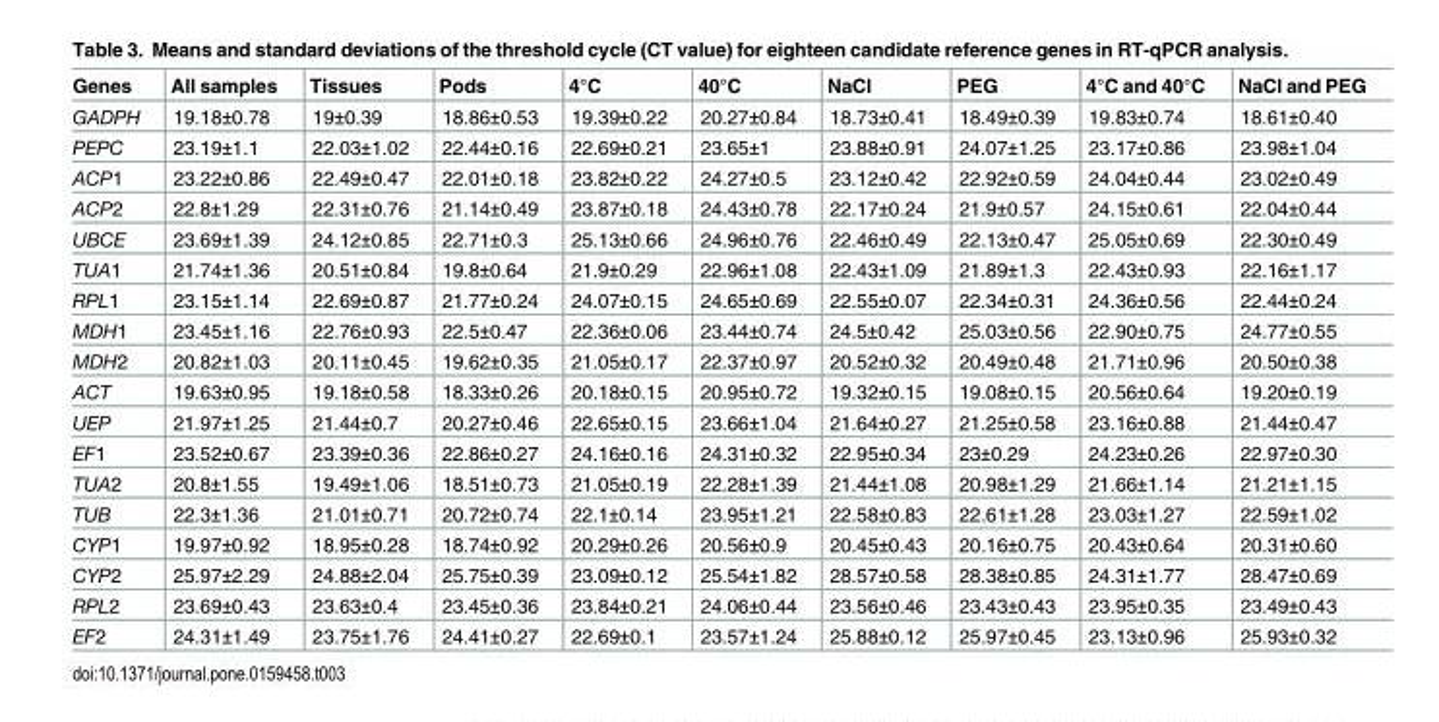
<table><thead><tr><td>Genes</td><td>All samples</td><td>Tissues</td><td>Pods</td><td>4°C</td><td>40°C</td><td>NaCl</td><td>PEG</td><td>4°C and 40°C</td><td>NaCl and PEG</td></tr></thead><tbody><tr><td>GADPH</td><td>19.18±0.78</td><td>19±0.39</td><td>18.86±0.53</td><td>19.39±0.22</td><td>20.27±0.84</td><td>18.73±0.41</td><td>18.49±0.39</td><td>19.83±0.74</td><td>18.61±0.40</td></tr><tr><td>PEPC</td><td>23.19±1.1</td><td>22.03±1.02</td><td>22.44±0.16</td><td>22.69±0.21</td><td>23.65±1</td><td>23.88±0.91</td><td>24.07±1.25</td><td>23.17±0.86</td><td>23.98±1.04</td></tr><tr><td>ACP1</td><td>23.22±0.86</td><td>22.49±0.47</td><td>22.01±0.18</td><td>23.82±0.22</td><td>24.27±0.5</td><td>23.12±0.42</td><td>22.92±0.59</td><td>24.04±0.44</td><td>23.02±0.49</td></tr><tr><td>ACP2</td><td>22.8±1.29</td><td>22.31±0.76</td><td>21.14±0.49</td><td>23.87±0.18</td><td>24.43±0.78</td><td>22.17±0.24</td><td>21.9±0.57</td><td>24.15±0.61</td><td>22.04±0.44</td></tr><tr><td>UBCE</td><td>23.69±1.39</td><td>24.12±0.85</td><td>22.71±0.3</td><td>25.13±0.66</td><td>24.96±0.76</td><td>22.46±0.49</td><td>22.13±0.47</td><td>25.05±0.69</td><td>22.30±0.49</td></tr><tr><td>TUA1</td><td>21.74±1.36</td><td>20.51±0.84</td><td>19.8±0.64</td><td>21.9±0.29</td><td>22.96±1.08</td><td>22.43±1.09</td><td>21.89±1.3</td><td>22.43±0.93</td><td>22.16±1.17</td></tr><tr><td>RPL1</td><td>23.15±1.14</td><td>22.69±0.87</td><td>21.77±0.24</td><td>24.07±0.15</td><td>24.65±0.69</td><td>22.55±0.07</td><td>22.34±0.31</td><td>24.36±0.56</td><td>22.44±0.24</td></tr><tr><td>MDH1</td><td>23.45±1.16</td><td>22.76±0.93</td><td>22.5±0.47</td><td>22.36±0.06</td><td>23.44±0.74</td><td>24.5±0.42</td><td>25.03±0.56</td><td>22.90±0.75</td><td>24.77±0.55</td></tr><tr><td>MDH2</td><td>20.82±1.03</td><td>20.11±0.45</td><td>19.62±0.35</td><td>21.05±0.17</td><td>22.37±0.97</td><td>20.52±0.32</td><td>20.49±0.48</td><td>21.71±0.96</td><td>20.50±0.38</td></tr><tr><td>ACT</td><td>19.63±0.95</td><td>19.18±0.58</td><td>18.33±0.26</td><td>20.18±0.15</td><td>20.95±0.72</td><td>19.32±0.15</td><td>19.08±0.15</td><td>20.56±0.64</td><td>19.20±0.19</td></tr><tr><td>UEP</td><td>21.97±1.25</td><td>21.44±0.7</td><td>20.27±0.46</td><td>22.65±0.15</td><td>23.66±1.04</td><td>21.64±0.27</td><td>21.25±0.58</td><td>23.16±0.88</td><td>21.44±0.47</td></tr><tr><td>EF1</td><td>23.52±0.67</td><td>23.39±0.36</td><td>22.86±0.27</td><td>24.16±0.16</td><td>24.31±0.32</td><td>22.95±0.34</td><td>23±0.29</td><td>24.23±0.26</td><td>22.97±0.30</td></tr><tr><td>TUA2</td><td>20.8±1.55</td><td>19.49±1.06</td><td>18.51±0.73</td><td>21.05±0.19</td><td>22.28±1.39</td><td>21.44±1.08</td><td>20.98±1.29</td><td>21.66±1.14</td><td>21.21±1.15</td></tr><tr><td>TUB</td><td>22.3±1.36</td><td>21.01±0.71</td><td>20.72±0.74</td><td>22.1±0.14</td><td>23.95±1.21</td><td>22.58±0.83</td><td>22.61±1.28</td><td>23.03±1.27</td><td>22.59±1.02</td></tr><tr><td>CYP1</td><td>19.97±0.92</td><td>18.95±0.28</td><td>18.74±0.92</td><td>20.29±0.26</td><td>20.56±0.9</td><td>20.45±0.43</td><td>20.16±0.75</td><td>20.43±0.64</td><td>20.31±0.60</td></tr><tr><td>CYP2</td><td>25.97±2.29</td><td>24.88±2.04</td><td>25.75±0.39</td><td>23.09±0.12</td><td>25.54±1.82</td><td>28.57±0.58</td><td>28.38±0.85</td><td>24.31±1.77</td><td>28.47±0.69</td></tr><tr><td>RPL2</td><td>23.69±0.43</td><td>23.63±0.4</td><td>23.45±0.36</td><td>23.84±0.21</td><td>24.06±0.44</td><td>23.56±0.46</td><td>23.43±0.43</td><td>23.95±0.35</td><td>23.49±0.43</td></tr><tr><td>EF2</td><td>24.31±1.49</td><td>23.75±1.76</td><td>24.41±0.27</td><td>22.69±0.1</td><td>23.57±1.24</td><td>25.88±0.12</td><td>25.97±0.45</td><td>23.13±0.96</td><td>25.93±0.32</td></tr></tbody></table>